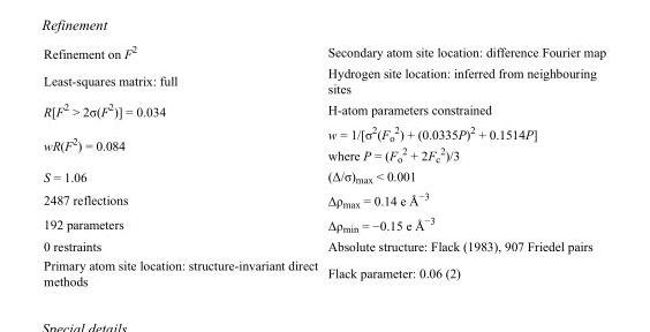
<table><tbody><tr><td>Refinement on F<sup>2</sup></td><td>Secondary atom site location: difference Fourier map</td></tr><tr><td>Least-squares matrix: full</td><td>Hydrogen site location: inferred from neighbouring sites</td></tr><tr><td>R[F<sup>2</sup> &gt; 2σ(F<sup>2</sup>)] = 0.034</td><td>H-atom parameters constrained</td></tr><tr><td>wR(F<sup>2</sup>) = 0.084</td><td>w = 1/[σ<sup>2</sup>(F<sub>o</sub> <sup>2</sup>) + (0.0335P)<sup>2</sup> + 0.1514P] where P = (F<sub>o</sub> <sup>2</sup> + 2F<sub>c</sub> <sup>2</sup>)/3</td></tr><tr><td>S = 1.06</td><td>(Δ/σ)<sub>max</sub> &lt; 0.001</td></tr><tr><td>2487 reflections</td><td>Δρ<sub>max</sub> = 0.14 e Å<sup>−3</sup></td></tr><tr><td>192 parameters</td><td>Δρ<sub>min</sub> = −0.15 e Å<sup>−3</sup></td></tr><tr><td>0 restraints</td><td>Absolute structure: Flack (1983), 907 Friedel pairs</td></tr><tr><td>Primary atom site location: structure-invariant direct methods</td><td>Flack parameter: 0.06 (2)</td></tr></tbody></table>